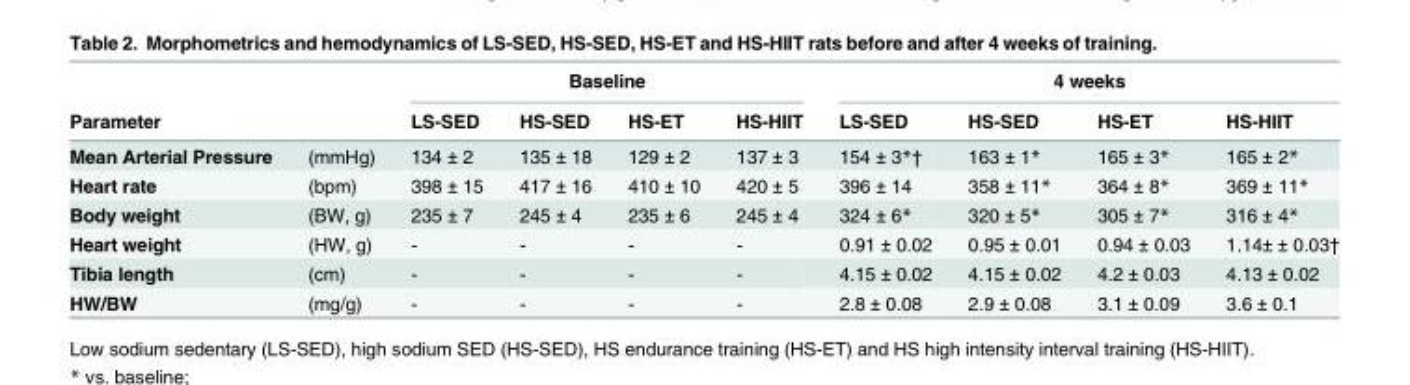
<table><thead><tr><td rowspan="2">Parameter</td><td rowspan="2"></td><td colspan="4">Baseline</td><td colspan="4">4 weeks</td></tr><tr><td>LS-SED</td><td>HS-SED</td><td>HS-ET</td><td>HS-HIIT</td><td>LS-SED</td><td>HS-SED</td><td>HS-ET</td><td>HS-HIIT</td></tr></thead><tbody><tr><td>Mean Arterial Pressure</td><td>(mmHg)</td><td>134 ± 2</td><td>135 ± 18</td><td>129 ± 2</td><td>137 ± 3</td><td>154 ± 3*†</td><td>163 ± 1*</td><td>165 ± 3*</td><td>165 ± 2*</td></tr><tr><td>Heart rate</td><td>(bpm)</td><td>398 ± 15</td><td>417 ± 16</td><td>410 ± 10</td><td>420 ± 5</td><td>396 ± 14</td><td>358 ± 11*</td><td>364 ± 8*</td><td>369 ± 11*</td></tr><tr><td>Body weight</td><td>(BW, g)</td><td>235 ± 7</td><td>245 ± 4</td><td>235 ± 6</td><td>245 ± 4</td><td>324 ± 6*</td><td>320 ± 5*</td><td>305 ± 7*</td><td>316 ± 4*</td></tr><tr><td>Heart weight</td><td>(HW, g)</td><td>-</td><td>-</td><td>-</td><td>-</td><td>0.91 ± 0.02</td><td>0.95 ± 0.01</td><td>0.94 ± 0.03</td><td>1.14± ± 0.03†</td></tr><tr><td>Tibia length</td><td>(cm)</td><td>-</td><td>-</td><td>-</td><td>-</td><td>4.15 ± 0.02</td><td>4.15 ± 0.02</td><td>4.2 ± 0.03</td><td>4.13 ± 0.02</td></tr><tr><td>HW/BW</td><td>(mg/g)</td><td>-</td><td>-</td><td>-</td><td>-</td><td>2.8 ± 0.08</td><td>2.9 ± 0.08</td><td>3.1 ± 0.09</td><td>3.6 ± 0.1</td></tr></tbody></table>